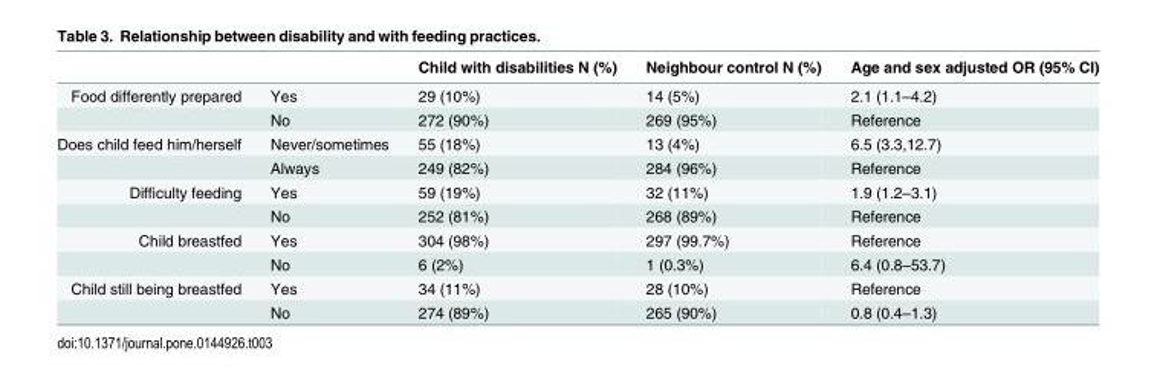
<table><thead><tr><td></td><td></td><td>Child with disabilities N (%)</td><td>Neighbour control N (%)</td><td>Age and sex adjusted OR (95% CI)</td></tr></thead><tbody><tr><td rowspan="2">Food differently prepared</td><td>Yes</td><td>29 (10%)</td><td>14 (5%)</td><td>2.1 (1.1–4.2)</td></tr><tr><td>No</td><td>272 (90%)</td><td>269 (95%)</td><td>Reference</td></tr><tr><td rowspan="2">Does child feed him/herself</td><td>Never/sometimes</td><td>55 (18%)</td><td>13 (4%)</td><td>6.5 (3.3,12.7)</td></tr><tr><td>Always</td><td>249 (82%)</td><td>284 (96%)</td><td>Reference</td></tr><tr><td rowspan="2">Difficulty feeding</td><td>Yes</td><td>59 (19%)</td><td>32 (11%)</td><td>1.9 (1.2–3.1)</td></tr><tr><td>No</td><td>252 (81%)</td><td>268 (89%)</td><td>Reference</td></tr><tr><td rowspan="2">Child breastfed</td><td>Yes</td><td>304 (98%)</td><td>297 (99.7%)</td><td>Reference</td></tr><tr><td>No</td><td>6 (2%)</td><td>1 (0.3%)</td><td>6.4 (0.8–53.7)</td></tr><tr><td rowspan="2">Child still being breastfed</td><td>Yes</td><td>34 (11%)</td><td>28 (10%)</td><td>Reference</td></tr><tr><td>No</td><td>274 (89%)</td><td>265 (90%)</td><td>0.8 (0.4–1.3)</td></tr></tbody></table>